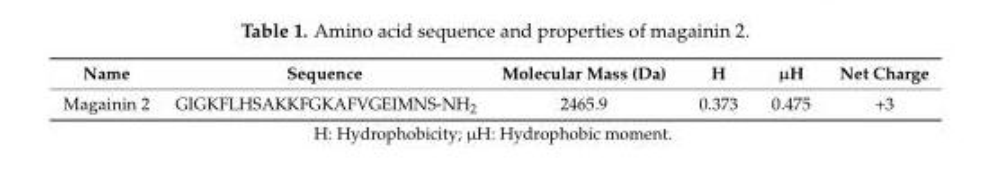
<table><thead><tr><td>Name</td><td>Sequence</td><td>Molecular Mass (Da)</td><td>H</td><td>µH</td><td>Net Charge</td></tr></thead><tbody><tr><td>Magainin 2</td><td>GIGKFLHSAKKFGKAFVGEIMNS-NH<sub>2</sub></td><td>2465.9</td><td>0.373</td><td>0.475</td><td>+3</td></tr></tbody></table>